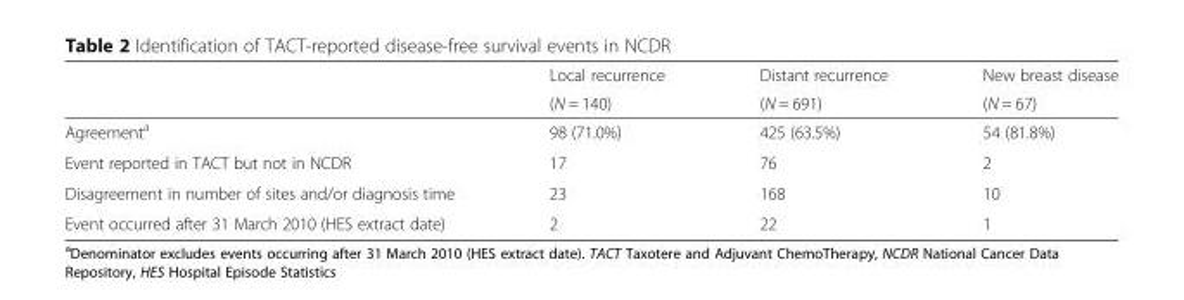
<table><thead><tr><td rowspan="2"></td><td rowspan="2">Local recurrence (N = 140)</td><td rowspan="2">Distant recurrence (N = 691)</td><td rowspan="2">New breast disease (N = 67)</td></tr><tr></tr></thead><tbody><tr><td>Agreement<sup>a</sup></td><td>98 (71.0%)</td><td>425 (63.5%)</td><td>54 (81.8%)</td></tr><tr><td>Event reported in TACT but not in NCDR</td><td>17</td><td>76</td><td>2</td></tr><tr><td>Disagreement in number of sites and/or diagnosis time</td><td>23</td><td>168</td><td>10</td></tr><tr><td>Event occurred after 31 March 2010 (HES extract date)</td><td>2</td><td>22</td><td>1</td></tr></tbody></table>